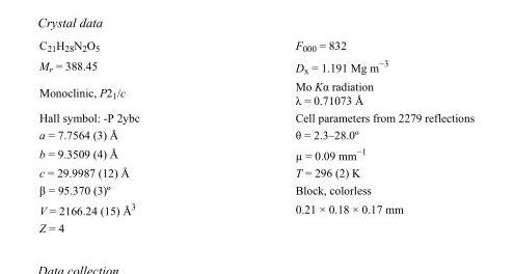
<table><tbody><tr><td>C<sub>21</sub>H<sub>28</sub>N<sub>2</sub>O<sub>5</sub></td><td>F<sub>000</sub> = 832</td></tr><tr><td>M<sub>r</sub> = 388.45</td><td>D<sub>x</sub> = 1.191 Mg m<sup>−3</sup></td></tr><tr><td>Monoclinic, P2<sub>1</sub>/c</td><td>Mo Kα radiation λ = 0.71073 Å</td></tr><tr><td>Hall symbol: -P 2ybc</td><td>Cell parameters from 2279 reflections</td></tr><tr><td>a = 7.7564 (3) Å</td><td>θ = 2.3–28.0º</td></tr><tr><td>b = 9.3509 (4) Å</td><td>µ = 0.09 mm<sup>−1</sup></td></tr><tr><td>c = 29.9987 (12) Å</td><td>T = 296 (2) K</td></tr><tr><td>β = 95.370 (3)º</td><td>Block, colorless</td></tr><tr><td>V = 2166.24 (15) Å<sup>3</sup></td><td>0.21 × 0.18 × 0.17 mm</td></tr><tr><td>Z = 4</td><td></td></tr></tbody></table>